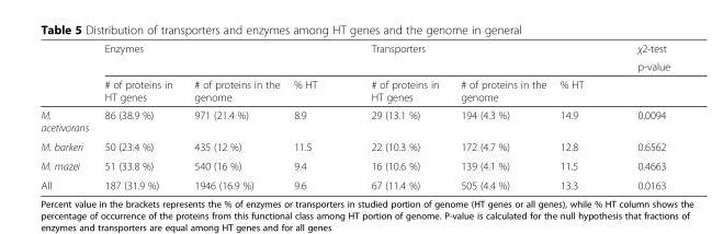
<table><thead><tr><td rowspan="3"></td><td rowspan="2" colspan="3">Enzymes</td><td rowspan="2" colspan="3">Transporters</td><td rowspan="3">χ2-test p-value</td></tr><tr></tr><tr><td># of proteins in HT genes</td><td># of proteins in the genome</td><td>% HT</td><td># of proteins in HT genes</td><td># of proteins in the genome</td><td>% HT</td></tr></thead><tbody><tr><td>M. acetivorans</td><td>86 (38.9 %)</td><td>971 (21.4 %)</td><td>8.9</td><td>29 (13.1 %)</td><td>194 (4.3 %)</td><td>14.9</td><td>0.0094</td></tr><tr><td>M. barkeri</td><td>50 (23.4 %)</td><td>435 (12 %)</td><td>11.5</td><td>22 (10.3 %)</td><td>172 (4.7 %)</td><td>12.8</td><td>0.6562</td></tr><tr><td>M. mazei</td><td>51 (33.8 %)</td><td>540 (16 %)</td><td>9.4</td><td>16 (10.6 %)</td><td>139 (4.1 %)</td><td>11.5</td><td>0.4663</td></tr><tr><td>All</td><td>187 (31.9 %)</td><td>1946 (16.9 %)</td><td>9.6</td><td>67 (11.4 %)</td><td>505 (4.4 %)</td><td>13.3</td><td>0.0163</td></tr></tbody></table>